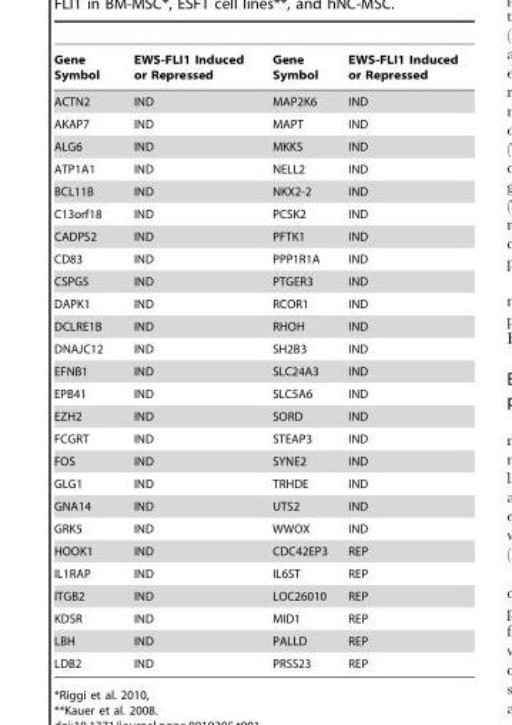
<table><thead><tr><td>Gene Symbol</td><td>EWS-FLI1 Induced or Repressed</td><td>Gene Symbol</td><td>EWS-FLI1 Induced or Repressed</td></tr></thead><tbody><tr><td>ACTN2</td><td>IND</td><td>MAP2K6</td><td>IND</td></tr><tr><td>AKAP7</td><td>IND</td><td>MAPT</td><td>IND</td></tr><tr><td>ALG6</td><td>IND</td><td>MKKS</td><td>IND</td></tr><tr><td>ATP1A1</td><td>IND</td><td>NELL2</td><td>IND</td></tr><tr><td>BCL11B</td><td>IND</td><td>NKX2-2</td><td>IND</td></tr><tr><td>C13orf18</td><td>IND</td><td>PCSK2</td><td>IND</td></tr><tr><td>CADPS2</td><td>IND</td><td>PFTK1</td><td>IND</td></tr><tr><td>CD83</td><td>IND</td><td>PPP1R1A</td><td>IND</td></tr><tr><td>CSPG5</td><td>IND</td><td>PTGER3</td><td>IND</td></tr><tr><td>DAPK1</td><td>IND</td><td>RCOR1</td><td>IND</td></tr><tr><td>DCLRE1B</td><td>IND</td><td>RHOH</td><td>IND</td></tr><tr><td>DNAJC12</td><td>IND</td><td>SH2B3</td><td>IND</td></tr><tr><td>EFNB1</td><td>IND</td><td>SLC24A3</td><td>IND</td></tr><tr><td>EPB41</td><td>IND</td><td>SLC5A6</td><td>IND</td></tr><tr><td>EZH2</td><td>IND</td><td>SORD</td><td>IND</td></tr><tr><td>FCGRT</td><td>IND</td><td>STEAP3</td><td>IND</td></tr><tr><td>FOS</td><td>IND</td><td>SYNE2</td><td>IND</td></tr><tr><td>GLG1</td><td>IND</td><td>TRHDE</td><td>IND</td></tr><tr><td>GNA14</td><td>IND</td><td>UTS2</td><td>IND</td></tr><tr><td>GRK5</td><td>IND</td><td>WWOX</td><td>IND</td></tr><tr><td>HOOK1</td><td>IND</td><td>CDC42EP3</td><td>REP</td></tr><tr><td>IL1RAP</td><td>IND</td><td>IL6ST</td><td>REP</td></tr><tr><td>ITGB2</td><td>IND</td><td>LOC26010</td><td>REP</td></tr><tr><td>KDSR</td><td>IND</td><td>MID1</td><td>REP</td></tr><tr><td>LBH</td><td>IND</td><td>PALLD</td><td>REP</td></tr><tr><td>LDB2</td><td>IND</td><td>PRSS23</td><td>REP</td></tr></tbody></table>